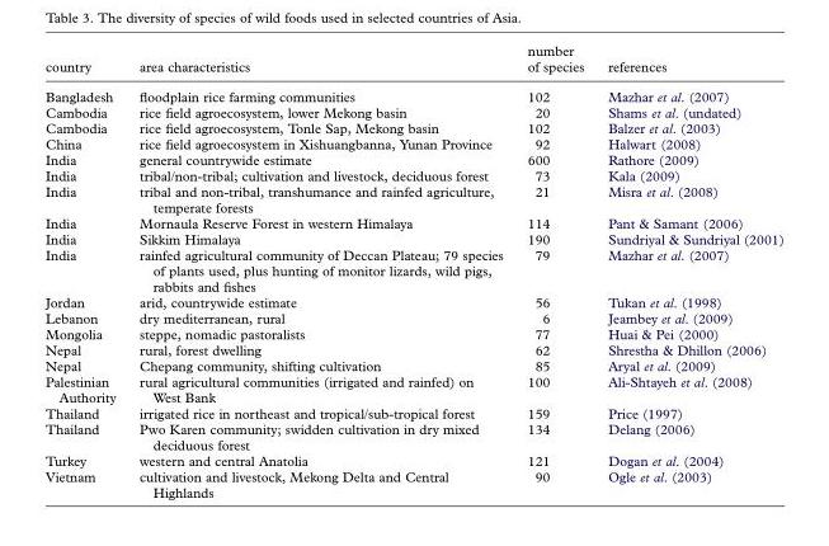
<table><thead><tr><td>country</td><td>area characteristics</td><td>number of species</td><td>references</td></tr></thead><tbody><tr><td>Bangladesh</td><td>floodplain rice farming communities</td><td>102</td><td>Mazhar et al. (2007)</td></tr><tr><td>Cambodia</td><td>rice field agroecosystem, lower Mekong basin</td><td>20</td><td>Shams et al. (undated)</td></tr><tr><td>Cambodia</td><td>rice field agroecosystem, Tonle Sap, Mekong basin</td><td>102</td><td>Balzer et al. (2003)</td></tr><tr><td>China</td><td>rice field agroecosystem in Xishuangbanna, Yunan Province</td><td>92</td><td>Halwart (2008)</td></tr><tr><td>India</td><td>general countrywide estimate</td><td>600</td><td>Rathore (2009)</td></tr><tr><td>India</td><td>tribal/non-tribal; cultivation and livestock, deciduous forest</td><td>73</td><td>Kala (2009)</td></tr><tr><td>India</td><td>tribal and non-tribal, transhumance and rainfed agriculture, temperate forests</td><td>21</td><td>Misra et al. (2008)</td></tr><tr><td>India</td><td>Mornaula Reserve Forest in western Himalaya</td><td>114</td><td>Pant &amp; Samant (2006)</td></tr><tr><td>India</td><td>Sikkim Himalaya</td><td>190</td><td>Sundriyal &amp; Sundriyal (2001)</td></tr><tr><td>India</td><td>rainfed agricultural community of Deccan Plateau; 79 species of plants used, plus hunting of monitor lizards, wild pigs, rabbits and fishes</td><td>79</td><td>Mazhar et al. (2007)</td></tr><tr><td>Jordan</td><td>arid, countrywide estimate</td><td>56</td><td>Tukan et al. (1998)</td></tr><tr><td>Lebanon</td><td>dry mediterranean, rural</td><td>6</td><td>Jeambey et al. (2009)</td></tr><tr><td>Mongolia</td><td>steppe, nomadic pastoralists</td><td>77</td><td>Huai &amp; Pei (2000)</td></tr><tr><td>Nepal</td><td>rural, forest dwelling</td><td>62</td><td>Shrestha &amp; Dhillon (2006)</td></tr><tr><td>Nepal</td><td>Chepang community, shifting cultivation</td><td>85</td><td>Aryal et al. (2009)</td></tr><tr><td>Palestinian Authority</td><td>rural agricultural communities (irrigated and rainfed) on West Bank</td><td>100</td><td>Ali-Shtayeh et al. (2008)</td></tr><tr><td>Thailand</td><td>irrigated rice in northeast and tropical/sub-tropical forest</td><td>159</td><td>Price (1997)</td></tr><tr><td>Thailand</td><td>Pwo Karen community; swidden cultivation in dry mixed deciduous forest</td><td>134</td><td>Delang (2006)</td></tr><tr><td>Turkey</td><td>western and central Anatolia</td><td>121</td><td>Dogan et al. (2004)</td></tr><tr><td>Vietnam</td><td>cultivation and livestock, Mekong Delta and Central Highlands</td><td>90</td><td>Ogle et al. (2003)</td></tr></tbody></table>